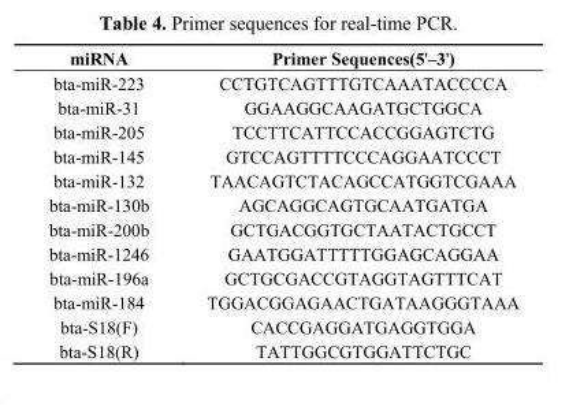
<table><thead><tr><td>miRNA</td><td>Primer Sequences(5&#x27;–3&#x27;)</td></tr></thead><tbody><tr><td>bta-miR-223</td><td>CCTGTCAGTTTGTCAAATACCCCA</td></tr><tr><td>bta-miR-31</td><td>GGAAGGCAAGATGCTGGCA</td></tr><tr><td>bta-miR-205</td><td>TCCTTCATTCCACCGGAGTCTG</td></tr><tr><td>bta-miR-145</td><td>GTCCAGTTTTCCCAGGAATCCCT</td></tr><tr><td>bta-miR-132</td><td>TAACAGTCTACAGCCATGGTCGAAA</td></tr><tr><td>bta-miR-130b</td><td>AGCAGGCAGTGCAATGATGA</td></tr><tr><td>bta-miR-200b</td><td>GCTGACGGTGCTAATACTGCCT</td></tr><tr><td>bta-miR-1246</td><td>GAATGGATTTTTGGAGCAGGAA</td></tr><tr><td>bta-miR-196a</td><td>GCTGCGACCGTAGGTAGTTTCAT</td></tr><tr><td>bta-miR-184</td><td>TGGACGGAGAACTGATAAGGGTAAA</td></tr><tr><td>bta-S18(F)</td><td>CACCGAGGATGAGGTGGA</td></tr><tr><td>bta-S18(R)</td><td>TATTGGCGTGGATTCTGC</td></tr></tbody></table>